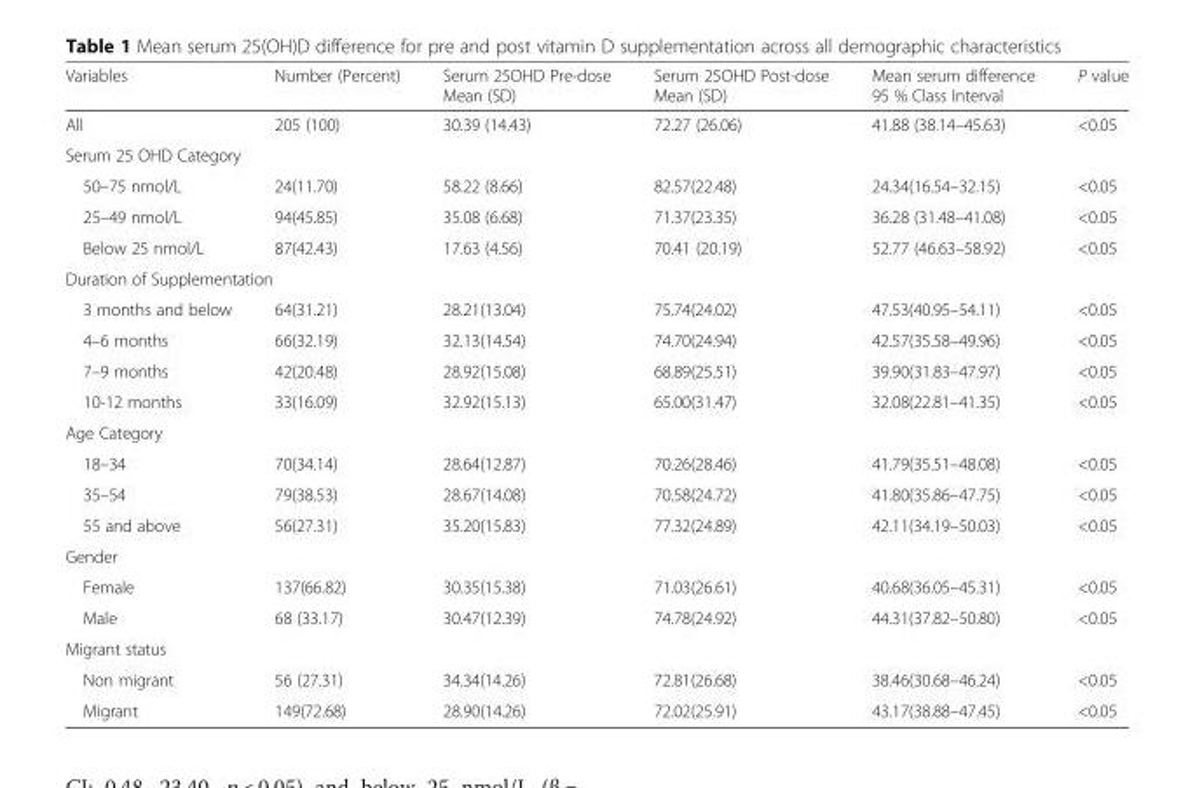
<table><thead><tr><td>Variables</td><td>Number (Percent)</td><td>Serum 25OHD Pre-dose Mean (SD)</td><td>Serum 25OHD Post-dose Mean (SD)</td><td>Mean serum difference 95 % Class Interval</td><td>P value</td></tr></thead><tbody><tr><td>All</td><td>205 (100)</td><td>30.39 (14.43)</td><td>72.27 (26.06)</td><td>41.88 (38.14–45.63)</td><td>&lt;0.05</td></tr><tr><td colspan="6">Serum 25 OHD Category</td></tr><tr><td>50–75 nmol/L</td><td>24(11.70)</td><td>58.22 (8.66)</td><td>82.57(22.48)</td><td>24.34(16.54–32.15)</td><td>&lt;0.05</td></tr><tr><td>25–49 nmol/L</td><td>94(45.85)</td><td>35.08 (6.68)</td><td>71.37(23.35)</td><td>36.28 (31.48–41.08)</td><td>&lt;0.05</td></tr><tr><td>Below 25 nmol/L</td><td>87(42.43)</td><td>17.63 (4.56)</td><td>70.41 (20.19)</td><td>52.77 (46.63–58.92)</td><td>&lt;0.05</td></tr><tr><td colspan="6">Duration of Supplementation</td></tr><tr><td>3 months and below</td><td>64(31.21)</td><td>28.21(13.04)</td><td>75.74(24.02)</td><td>47.53(40.95–54.11)</td><td>&lt;0.05</td></tr><tr><td>4–6 months</td><td>66(32.19)</td><td>32.13(14.54)</td><td>74.70(24.94)</td><td>42.57(35.58–49.96)</td><td>&lt;0.05</td></tr><tr><td>7–9 months</td><td>42(20.48)</td><td>28.92(15.08)</td><td>68.89(25.51)</td><td>39.90(31.83–47.97)</td><td>&lt;0.05</td></tr><tr><td>10-12 months</td><td>33(16.09)</td><td>32.92(15.13)</td><td>65.00(31.47)</td><td>32.08(22.81–41.35)</td><td>&lt;0.05</td></tr><tr><td colspan="6">Age Category</td></tr><tr><td>18–34</td><td>70(34.14)</td><td>28.64(12.87)</td><td>70.26(28.46)</td><td>41.79(35.51–48.08)</td><td>&lt;0.05</td></tr><tr><td>35–54</td><td>79(38.53)</td><td>28.67(14.08)</td><td>70.58(24.72)</td><td>41.80(35.86–47.75)</td><td>&lt;0.05</td></tr><tr><td>55 and above</td><td>56(27.31)</td><td>35.20(15.83)</td><td>77.32(24.89)</td><td>42.11(34.19–50.03)</td><td>&lt;0.05</td></tr><tr><td colspan="6">Gender</td></tr><tr><td>Female</td><td>137(66.82)</td><td>30.35(15.38)</td><td>71.03(26.61)</td><td>40.68(36.05–45.31)</td><td>&lt;0.05</td></tr><tr><td>Male</td><td>68 (33.17)</td><td>30.47(12.39)</td><td>74.78(24.92)</td><td>44.31(37.82–50.80)</td><td>&lt;0.05</td></tr><tr><td colspan="6">Migrant status</td></tr><tr><td>Non migrant</td><td>56 (27.31)</td><td>34.34(14.26)</td><td>72.81(26.68)</td><td>38.46(30.68–46.24)</td><td>&lt;0.05</td></tr><tr><td>Migrant</td><td>149(72.68)</td><td>28.90(14.26)</td><td>72.02(25.91)</td><td>43.17(38.88–47.45)</td><td>&lt;0.05</td></tr></tbody></table>